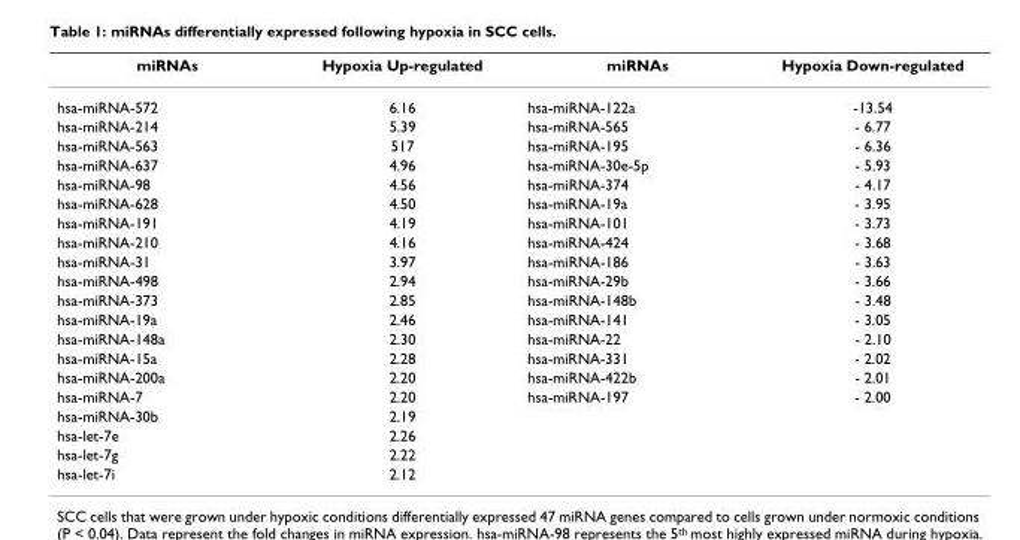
<table><thead><tr><td>miRNAs</td><td>Hypoxia Up-regulated</td><td>miRNAs</td><td>Hypoxia Down-regulated</td></tr></thead><tbody><tr><td>hsa-miRNA-572</td><td>6.16</td><td>hsa-miRNA-122a</td><td>-13.54</td></tr><tr><td>hsa-miRNA-214</td><td>5.39</td><td>hsa-miRNA-565</td><td>- 6.77</td></tr><tr><td>hsa-miRNA-563</td><td>517</td><td>hsa-miRNA-195</td><td>- 6.36</td></tr><tr><td>hsa-miRNA-637</td><td>4.96</td><td>hsa-miRNA-30e-5p</td><td>- 5.93</td></tr><tr><td>hsa-miRNA-98</td><td>4.56</td><td>hsa-miRNA-374</td><td>- 4.17</td></tr><tr><td>hsa-miRNA-628</td><td>4.50</td><td>hsa-miRNA-19a</td><td>- 3.95</td></tr><tr><td>hsa-miRNA-191</td><td>4.19</td><td>hsa-miRNA-101</td><td>- 3.73</td></tr><tr><td>hsa-miRNA-210</td><td>4.16</td><td>hsa-miRNA-424</td><td>- 3.68</td></tr><tr><td>hsa-miRNA-31</td><td>3.97</td><td>hsa-miRNA-186</td><td>- 3.63</td></tr><tr><td>hsa-miRNA-498</td><td>2.94</td><td>hsa-miRNA-29b</td><td>- 3.66</td></tr><tr><td>hsa-miRNA-373</td><td>2.85</td><td>hsa-miRNA-148b</td><td>- 3.48</td></tr><tr><td>hsa-miRNA-19a</td><td>2.46</td><td>hsa-miRNA-141</td><td>- 3.05</td></tr><tr><td>hsa-miRNA-148a</td><td>2.30</td><td>hsa-miRNA-22</td><td>- 2.10</td></tr><tr><td>hsa-miRNA-15a</td><td>2.28</td><td>hsa-miRNA-331</td><td>- 2.02</td></tr><tr><td>hsa-miRNA-200a</td><td>2.20</td><td>hsa-miRNA-422b</td><td>- 2.01</td></tr><tr><td>hsa-miRNA-7</td><td>2.20</td><td>hsa-miRNA-197</td><td>- 2.00</td></tr><tr><td>hsa-miRNA-30b</td><td>2.19</td><td></td><td></td></tr><tr><td>hsa-let-7e</td><td>2.26</td><td></td><td></td></tr><tr><td>hsa-let-7g</td><td>2.22</td><td></td><td></td></tr><tr><td>hsa-let-7i</td><td>2.12</td><td></td><td></td></tr></tbody></table>